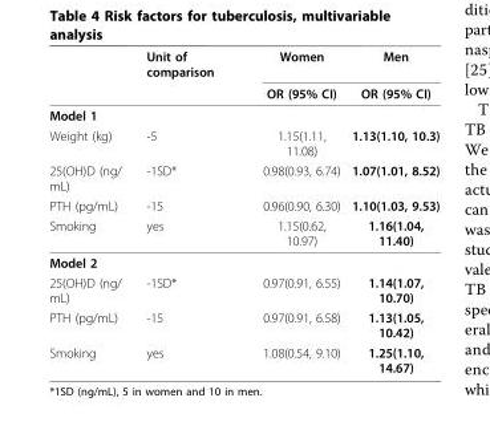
<table><thead><tr><td rowspan="2"></td><td rowspan="2">Unit of comparison</td><td rowspan="2">Women OR (95% CI)</td><td rowspan="2">Men OR (95% CI)</td></tr><tr></tr></thead><tbody><tr><td colspan="4">Model 1</td></tr><tr><td>Weight (kg)</td><td>-5</td><td>1.15(1.11, 11.08)</td><td>1.13(1.10, 10.3)</td></tr><tr><td>25(OH)D (ng/ mL)</td><td>-1SD*</td><td>0.98(0.93, 6.74)</td><td>1.07(1.01, 8.52)</td></tr><tr><td>PTH (pg/mL)</td><td>-15</td><td>0.96(0.90, 6.30)</td><td>1.10(1.03, 9.53)</td></tr><tr><td>Smoking</td><td>yes</td><td>1.15(0.62, 10.97)</td><td>1.16(1.04, 11.40)</td></tr><tr><td colspan="4">Model 2</td></tr><tr><td>25(OH)D (ng/ mL)</td><td>-1SD*</td><td>0.97(0.91, 6.55)</td><td>1.14(1.07, 10.70)</td></tr><tr><td>PTH (pg/mL)</td><td>-15</td><td>0.97(0.91, 6.58)</td><td>1.13(1.05, 10.42)</td></tr><tr><td>Smoking</td><td>yes</td><td>1.08(0.54, 9.10)</td><td>1.25(1.10, 14.67)</td></tr></tbody></table>